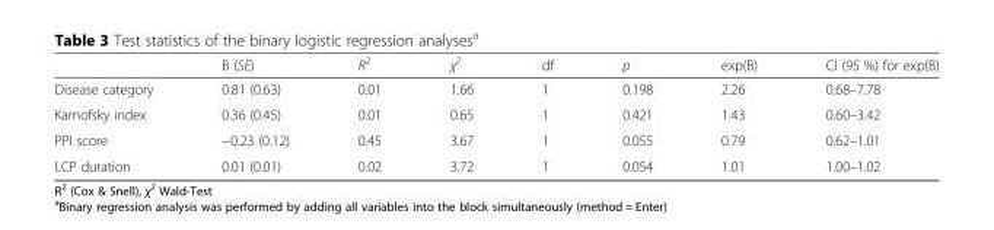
<table><thead><tr><td></td><td>B (SE)</td><td>R<sup>2</sup></td><td>χ<sup>2</sup></td><td>df</td><td>p</td><td>exp(B)</td><td>CI (95 %) for exp(B)</td></tr></thead><tbody><tr><td>Disease category</td><td>0.81 (0.63)</td><td>0.01</td><td>1.66</td><td>1</td><td>0.198</td><td>2.26</td><td>0.68–7.78</td></tr><tr><td>Karnofsky index</td><td>0.36 (0.45)</td><td>0.01</td><td>0.65</td><td>1</td><td>0.421</td><td>1.43</td><td>0.60–3.42</td></tr><tr><td>PPI score</td><td>−0.23 (0.12)</td><td>0.45</td><td>3.67</td><td>1</td><td>0.055</td><td>0.79</td><td>0.62–1.01</td></tr><tr><td>LCP duration</td><td>0.01 (0.01)</td><td>0.02</td><td>3.72</td><td>1</td><td>0.054</td><td>1.01</td><td>1.00–1.02</td></tr></tbody></table>